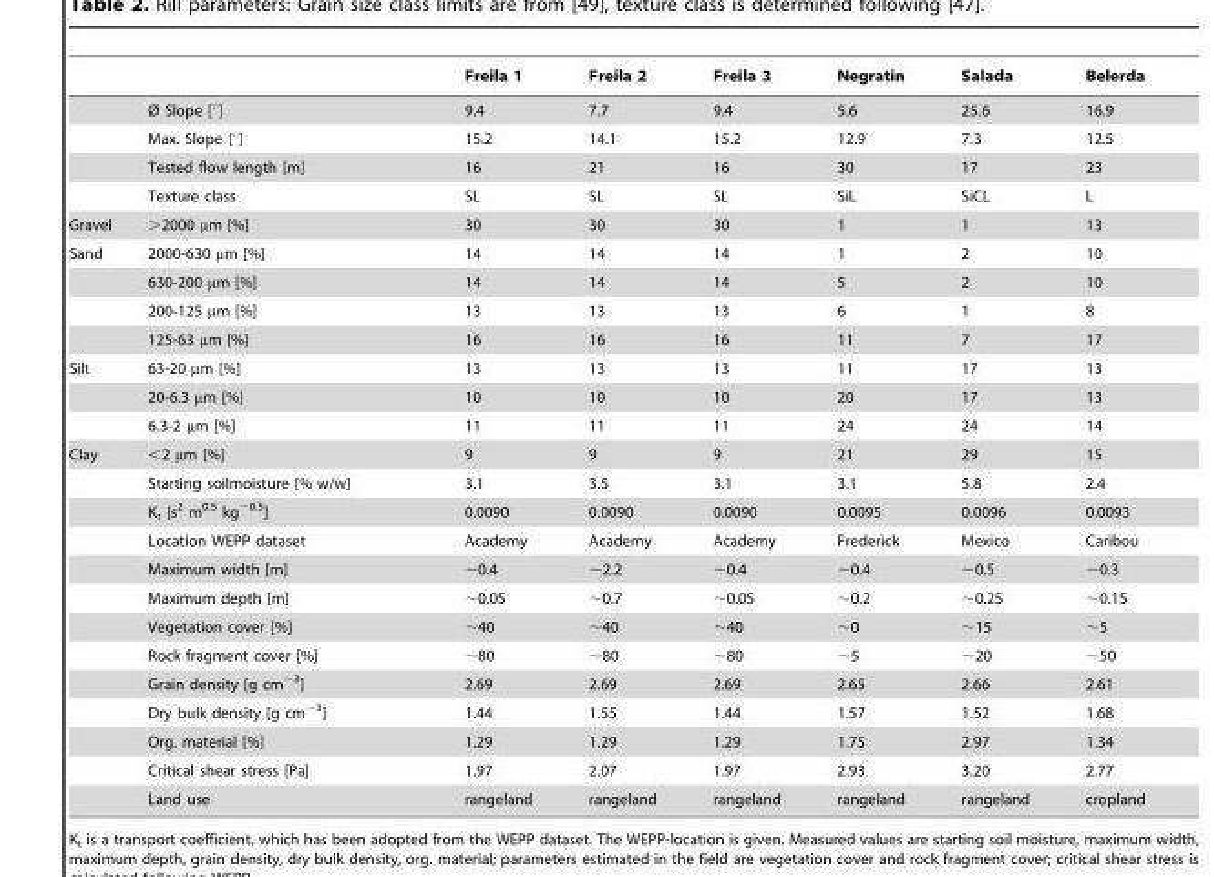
<table><thead><tr><td></td><td></td><td>Freila 1</td><td>Freila 2</td><td>Freila 3</td><td>Negratin</td><td>Salada</td><td>Belerda</td></tr></thead><tbody><tr><td></td><td>Ø Slope [°]</td><td>9.4</td><td>7.7</td><td>9.4</td><td>5.6</td><td>25.6</td><td>16.9</td></tr><tr><td></td><td>Max. Slope [°]</td><td>15.2</td><td>14.1</td><td>15.2</td><td>12.9</td><td>7.3</td><td>12.5</td></tr><tr><td></td><td>Tested flow length [m]</td><td>16</td><td>21</td><td>16</td><td>30</td><td>17</td><td>23</td></tr><tr><td></td><td>Texture class</td><td>SL</td><td>SL</td><td>SL</td><td>SiL</td><td>SiCL</td><td>L</td></tr><tr><td>Gravel</td><td>&gt;2000 µm [%]</td><td>30</td><td>30</td><td>30</td><td>1</td><td>1</td><td>13</td></tr><tr><td rowspan="4">Sand</td><td>2000-630 µm [%]</td><td>14</td><td>14</td><td>14</td><td>1</td><td>2</td><td>10</td></tr><tr><td>630-200 µm [%]</td><td>14</td><td>14</td><td>14</td><td>5</td><td>2</td><td>10</td></tr><tr><td>200-125 µm [%]</td><td>13</td><td>13</td><td>13</td><td>6</td><td>1</td><td>8</td></tr><tr><td>125-63 µm [%]</td><td>16</td><td>16</td><td>16</td><td>11</td><td>7</td><td>17</td></tr><tr><td rowspan="3">Silt</td><td>63-20 µm [%]</td><td>13</td><td>13</td><td>13</td><td>11</td><td>17</td><td>13</td></tr><tr><td>20-6.3 µm [%]</td><td>10</td><td>10</td><td>10</td><td>20</td><td>17</td><td>13</td></tr><tr><td>6.3-2 µm [%]</td><td>11</td><td>11</td><td>11</td><td>24</td><td>24</td><td>14</td></tr><tr><td rowspan="13">Clay</td><td>&lt;2 µm [%]</td><td>9</td><td>9</td><td>9</td><td>21</td><td>29</td><td>15</td></tr><tr><td>Starting soilmoisture [% w/w]</td><td>3.1</td><td>3.5</td><td>3.1</td><td>3.1</td><td>5.8</td><td>2.4</td></tr><tr><td>K<sub>t</sub> [s<sup>2</sup> m<sup>0.5</sup> kg<sup>−0.5</sup>]</td><td>0.0090</td><td>0.0090</td><td>0.0090</td><td>0.0095</td><td>0.0096</td><td>0.0093</td></tr><tr><td>Location WEPP dataset</td><td>Academy</td><td>Academy</td><td>Academy</td><td>Frederick</td><td>Mexico</td><td>Caribou</td></tr><tr><td>Maximum width [m]</td><td>∼0.4</td><td>∼2.2</td><td>∼0.4</td><td>∼0.4</td><td>∼0.5</td><td>∼0.3</td></tr><tr><td>Maximum depth [m]</td><td>∼0.05</td><td>∼0.7</td><td>∼0.05</td><td>∼0.2</td><td>∼0.25</td><td>∼0.15</td></tr><tr><td>Vegetation cover [%]</td><td>∼40</td><td>∼40</td><td>∼40</td><td>∼0</td><td>∼15</td><td>∼5</td></tr><tr><td>Rock fragment cover [%]</td><td>∼80</td><td>∼80</td><td>∼80</td><td>∼5</td><td>∼20</td><td>∼50</td></tr><tr><td>Grain density [g cm<sup>−3</sup>]</td><td>2.69</td><td>2.69</td><td>2.69</td><td>2.65</td><td>2.66</td><td>2.61</td></tr><tr><td>Dry bulk density [g cm<sup>−3</sup>]</td><td>1.44</td><td>1.55</td><td>1.44</td><td>1.57</td><td>1.52</td><td>1.68</td></tr><tr><td>Org. material [%]</td><td>1.29</td><td>1.29</td><td>1.29</td><td>1.75</td><td>2.97</td><td>1.34</td></tr><tr><td>Critical shear stress [Pa]</td><td>1.97</td><td>2.07</td><td>1.97</td><td>2.93</td><td>3.20</td><td>2.77</td></tr><tr><td>Land use</td><td>rangeland</td><td>rangeland</td><td>rangeland</td><td>rangeland</td><td>rangeland</td><td>cropland</td></tr></tbody></table>